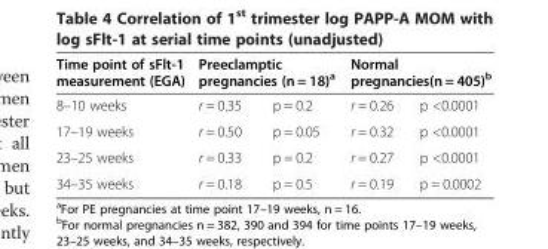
<table><thead><tr><td rowspan="2">Time point of sFlt-1 measurement (EGA) 8–10 weeks</td><td colspan="2">Preeclamptic pregnancies (n = 18)<sup>a</sup></td><td colspan="2">Normal pregnancies(n = 405)<sup>b</sup></td></tr><tr><td>r = 0.35</td><td>p = 0.2</td><td>r = 0.26</td><td>p &lt;0.0001</td></tr></thead><tbody><tr><td>17–19 weeks</td><td>r = 0.50</td><td>p = 0.05</td><td>r = 0.32</td><td>p &lt;0.0001</td></tr><tr><td>23–25 weeks</td><td>r = 0.33</td><td>p = 0.2</td><td>r = 0.27</td><td>p &lt;0.0001</td></tr><tr><td>34–35 weeks</td><td>r = 0.18</td><td>p = 0.5</td><td>r = 0.19</td><td>p = 0.0002</td></tr></tbody></table>